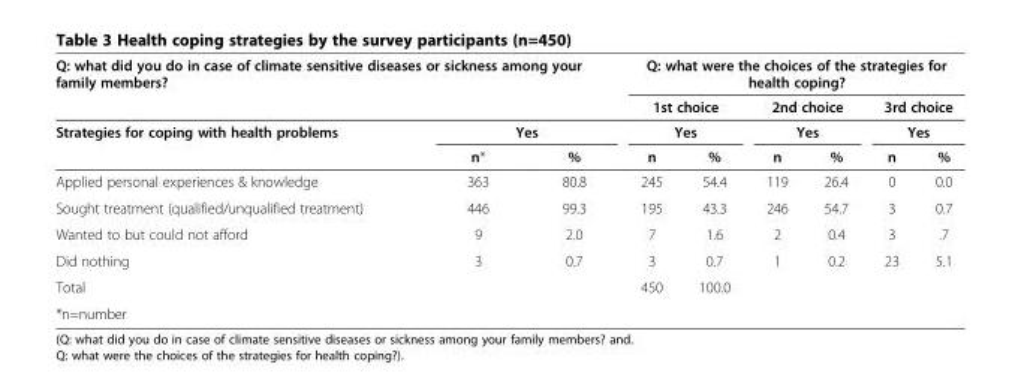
<table><thead><tr><td rowspan="2" colspan="3">Q: what did you do in case of climate sensitive diseases or sickness among your family members?</td><td colspan="6">Q: what were the choices of the strategies for health coping?</td></tr><tr><td rowspan="2" colspan="2">1st choice Yes</td><td rowspan="2" colspan="2">2nd choice Yes</td><td rowspan="2" colspan="2">3rd choice Yes</td></tr><tr><td rowspan="2">Strategies for coping with health problems</td><td colspan="2">Yes</td></tr><tr><td>n*</td><td>%</td><td>n</td><td>%</td><td>n</td><td>%</td><td>n</td><td>%</td></tr></thead><tbody><tr><td>Applied personal experiences &amp; knowledge</td><td>363</td><td>80.8</td><td>245</td><td>54.4</td><td>119</td><td>26.4</td><td>0</td><td>0.0</td></tr><tr><td>Sought treatment (qualified/unqualified treatment)</td><td>446</td><td>99.3</td><td>195</td><td>43.3</td><td>246</td><td>54.7</td><td>3</td><td>0.7</td></tr><tr><td>Wanted to but could not afford</td><td>9</td><td>2.0</td><td>7</td><td>1.6</td><td>2</td><td>0.4</td><td>3</td><td>.7</td></tr><tr><td>Did nothing</td><td>3</td><td>0.7</td><td>3</td><td>0.7</td><td>1</td><td>0.2</td><td>23</td><td>5.1</td></tr><tr><td>Total</td><td></td><td></td><td>450</td><td>100.0</td><td></td><td></td><td></td><td></td></tr><tr><td>*n=number</td><td></td><td></td><td></td><td></td><td></td><td></td><td></td><td></td></tr></tbody></table>